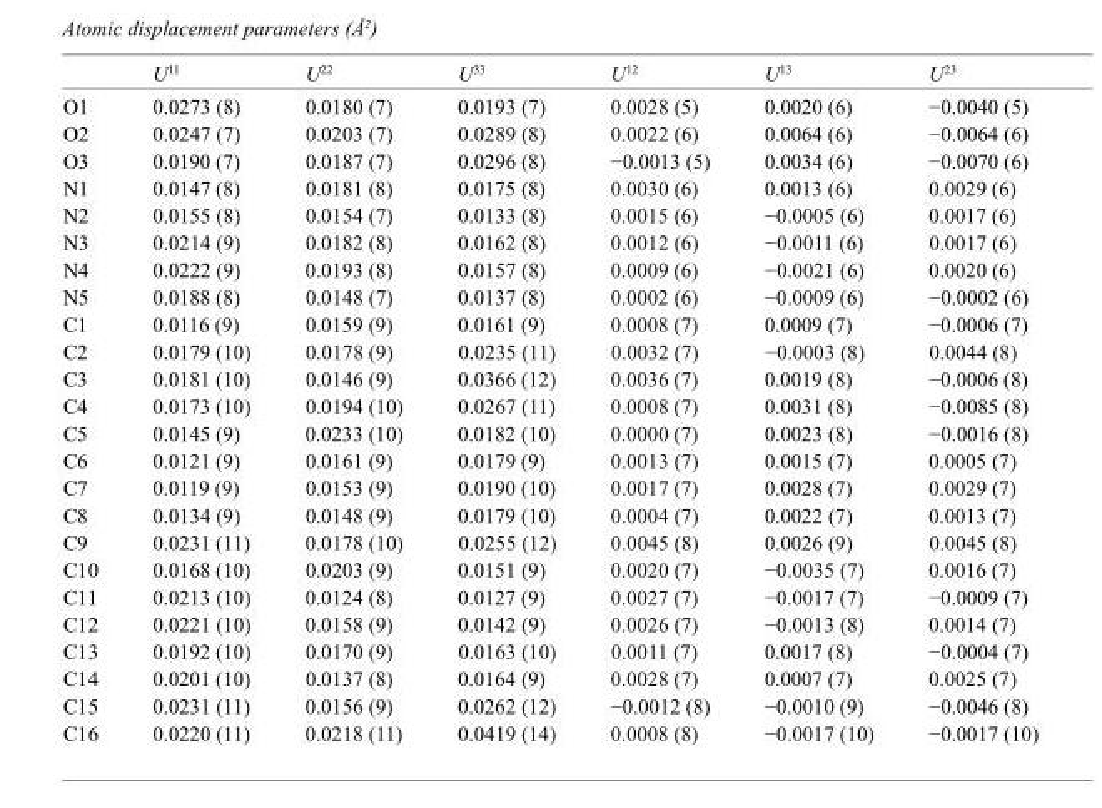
<table><thead><tr><td></td><td>U<sup>11</sup></td><td>U<sup>22</sup></td><td>U<sup>33</sup></td><td>U<sup>12</sup></td><td>U<sup>13</sup></td><td>U<sup>23</sup></td></tr></thead><tbody><tr><td>O1</td><td>0.0273 (8)</td><td>0.0180 (7)</td><td>0.0193 (7)</td><td>0.0028 (5)</td><td>0.0020 (6)</td><td>−0.0040 (5)</td></tr><tr><td>O2</td><td>0.0247 (7)</td><td>0.0203 (7)</td><td>0.0289 (8)</td><td>0.0022 (6)</td><td>0.0064 (6)</td><td>−0.0064 (6)</td></tr><tr><td>O3</td><td>0.0190 (7)</td><td>0.0187 (7)</td><td>0.0296 (8)</td><td>−0.0013 (5)</td><td>0.0034 (6)</td><td>−0.0070 (6)</td></tr><tr><td>N1</td><td>0.0147 (8)</td><td>0.0181 (8)</td><td>0.0175 (8)</td><td>0.0030 (6)</td><td>0.0013 (6)</td><td>0.0029 (6)</td></tr><tr><td>N2</td><td>0.0155 (8)</td><td>0.0154 (7)</td><td>0.0133 (8)</td><td>0.0015 (6)</td><td>−0.0005 (6)</td><td>0.0017 (6)</td></tr><tr><td>N3</td><td>0.0214 (9)</td><td>0.0182 (8)</td><td>0.0162 (8)</td><td>0.0012 (6)</td><td>−0.0011 (6)</td><td>0.0017 (6)</td></tr><tr><td>N4</td><td>0.0222 (9)</td><td>0.0193 (8)</td><td>0.0157 (8)</td><td>0.0009 (6)</td><td>−0.0021 (6)</td><td>0.0020 (6)</td></tr><tr><td>N5</td><td>0.0188 (8)</td><td>0.0148 (7)</td><td>0.0137 (8)</td><td>0.0002 (6)</td><td>−0.0009 (6)</td><td>−0.0002 (6)</td></tr><tr><td>C1</td><td>0.0116 (9)</td><td>0.0159 (9)</td><td>0.0161 (9)</td><td>0.0008 (7)</td><td>0.0009 (7)</td><td>−0.0006 (7)</td></tr><tr><td>C2</td><td>0.0179 (10)</td><td>0.0178 (9)</td><td>0.0235 (11)</td><td>0.0032 (7)</td><td>−0.0003 (8)</td><td>0.0044 (8)</td></tr><tr><td>C3</td><td>0.0181 (10)</td><td>0.0146 (9)</td><td>0.0366 (12)</td><td>0.0036 (7)</td><td>0.0019 (8)</td><td>−0.0006 (8)</td></tr><tr><td>C4</td><td>0.0173 (10)</td><td>0.0194 (10)</td><td>0.0267 (11)</td><td>0.0008 (7)</td><td>0.0031 (8)</td><td>−0.0085 (8)</td></tr><tr><td>C5</td><td>0.0145 (9)</td><td>0.0233 (10)</td><td>0.0182 (10)</td><td>0.0000 (7)</td><td>0.0023 (8)</td><td>−0.0016 (8)</td></tr><tr><td>C6</td><td>0.0121 (9)</td><td>0.0161 (9)</td><td>0.0179 (9)</td><td>0.0013 (7)</td><td>0.0015 (7)</td><td>0.0005 (7)</td></tr><tr><td>C7</td><td>0.0119 (9)</td><td>0.0153 (9)</td><td>0.0190 (10)</td><td>0.0017 (7)</td><td>0.0028 (7)</td><td>0.0029 (7)</td></tr><tr><td>C8</td><td>0.0134 (9)</td><td>0.0148 (9)</td><td>0.0179 (10)</td><td>0.0004 (7)</td><td>0.0022 (7)</td><td>0.0013 (7)</td></tr><tr><td>C9</td><td>0.0231 (11)</td><td>0.0178 (10)</td><td>0.0255 (12)</td><td>0.0045 (8)</td><td>0.0026 (9)</td><td>0.0045 (8)</td></tr><tr><td>C10</td><td>0.0168 (10)</td><td>0.0203 (9)</td><td>0.0151 (9)</td><td>0.0020 (7)</td><td>−0.0035 (7)</td><td>0.0016 (7)</td></tr><tr><td>C11</td><td>0.0213 (10)</td><td>0.0124 (8)</td><td>0.0127 (9)</td><td>0.0027 (7)</td><td>−0.0017 (7)</td><td>−0.0009 (7)</td></tr><tr><td>C12</td><td>0.0221 (10)</td><td>0.0158 (9)</td><td>0.0142 (9)</td><td>0.0026 (7)</td><td>−0.0013 (8)</td><td>0.0014 (7)</td></tr><tr><td>C13</td><td>0.0192 (10)</td><td>0.0170 (9)</td><td>0.0163 (10)</td><td>0.0011 (7)</td><td>0.0017 (8)</td><td>−0.0004 (7)</td></tr><tr><td>C14</td><td>0.0201 (10)</td><td>0.0137 (8)</td><td>0.0164 (9)</td><td>0.0028 (7)</td><td>0.0007 (7)</td><td>0.0025 (7)</td></tr><tr><td>C15</td><td>0.0231 (11)</td><td>0.0156 (9)</td><td>0.0262 (12)</td><td>−0.0012 (8)</td><td>−0.0010 (9)</td><td>−0.0046 (8)</td></tr><tr><td>C16</td><td>0.0220 (11)</td><td>0.0218 (11)</td><td>0.0419 (14)</td><td>0.0008 (8)</td><td>−0.0017 (10)</td><td>−0.0017 (10)</td></tr></tbody></table>